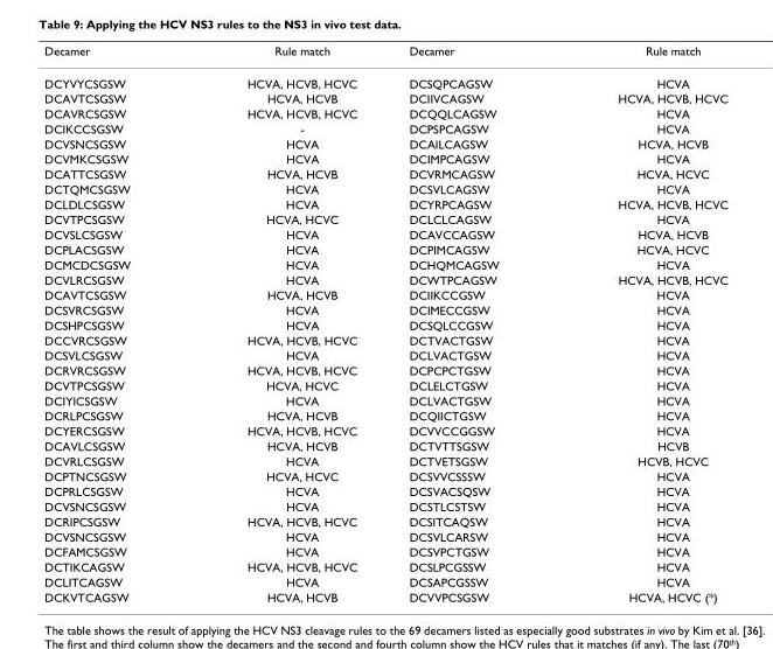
<table><thead><tr><td>Decamer</td><td>Rule match</td><td>Decamer</td><td>Rule match</td></tr></thead><tbody><tr><td>DCYVYCSGSW</td><td>HCVA, HCVB, HCVC</td><td>DCSQPCAGSW</td><td>HCVA</td></tr><tr><td>DCAVTCSGSW</td><td>HCVA, HCVB</td><td>DCIIVCAGSW</td><td>HCVA, HCVB, HCVC</td></tr><tr><td>DCAVRCSGSW</td><td>HCVA, HCVB, HCVC</td><td>DCQQLCAGSW</td><td>HCVA</td></tr><tr><td>DCIKCCSGSW</td><td>-</td><td>DCPSPCAGSW</td><td>HCVA</td></tr><tr><td>DCVSNCSGSW</td><td>HCVA</td><td>DCAILCAGSW</td><td>HCVA, HCVB</td></tr><tr><td>DCVMKCSGSW</td><td>HCVA</td><td>DCIMPCAGSW</td><td>HCVA</td></tr><tr><td>DCATTCSGSW</td><td>HCVA, HCVB</td><td>DCVRMCAGSW</td><td>HCVA, HCVC</td></tr><tr><td>DCTQMCSGSW</td><td>HCVA</td><td>DCSVLCAGSW</td><td>HCVA</td></tr><tr><td>DCLDLCSGSW</td><td>HCVA</td><td>DCYRPCAGSW</td><td>HCVA, HCVB, HCVC</td></tr><tr><td>DCVTPCSGSW</td><td>HCVA, HCVC</td><td>DCLCLCAGSW</td><td>HCVA</td></tr><tr><td>DCVSLCSGSW</td><td>HCVA</td><td>DCAVCCAGSW</td><td>HCVA, HCVB</td></tr><tr><td>DCPLACSGSW</td><td>HCVA</td><td>DCPIMCAGSW</td><td>HCVA, HCVC</td></tr><tr><td>DCMCDCSGSW</td><td>HCVA</td><td>DCHQMCAGSW</td><td>HCVA</td></tr><tr><td>DCVLRCSGSW</td><td>HCVA</td><td>DCWTPCAGSW</td><td>HCVA, HCVB, HCVC</td></tr><tr><td>DCAVTCSGSW</td><td>HCVA, HCVB</td><td>DCIIKCCGSW</td><td>HCVA</td></tr><tr><td>DCSVRCSGSW</td><td>HCVA</td><td>DCIMECCGSW</td><td>HCVA</td></tr><tr><td>DCSHPCSGSW</td><td>HCVA</td><td>DCSQLCCGSW</td><td>HCVA</td></tr><tr><td>DCCVRCSGSW</td><td>HCVA, HCVB, HCVC</td><td>DCTVACTGSW</td><td>HCVA</td></tr><tr><td>DCSVLCSGSW</td><td>HCVA</td><td>DCLVACTGSW</td><td>HCVA</td></tr><tr><td>DCRVRCSGSW</td><td>HCVA, HCVB, HCVC</td><td>DCPCPCTGSW</td><td>HCVA</td></tr><tr><td>DCVTPCSGSW</td><td>HCVA, HCVC</td><td>DCLELCTGSW</td><td>HCVA</td></tr><tr><td>DCIYICSGSW</td><td>HCVA</td><td>DCLVACTGSW</td><td>HCVA</td></tr><tr><td>DCRLPCSGSW</td><td>HCVA, HCVB</td><td>DCQIICTGSW</td><td>HCVA</td></tr><tr><td>DCYERCSGSW</td><td>HCVA, HCVB, HCVC</td><td>DCVVCCGGSW</td><td>HCVA</td></tr><tr><td>DCAVLCSGSW</td><td>HCVA, HCVB</td><td>DCTVTTSGSW</td><td>HCVB</td></tr><tr><td>DCVRLCSGSW</td><td>HCVA</td><td>DCTVETSGSW</td><td>HCVB, HCVC</td></tr><tr><td>DCPTNCSGSW</td><td>HCVA, HCVC</td><td>DCSVVCSSSW</td><td>HCVA</td></tr><tr><td>DCPRLCSGSW</td><td>HCVA</td><td>DCSVACSQSW</td><td>HCVA</td></tr><tr><td>DCVSNCSGSW</td><td>HCVA</td><td>DCSTLCSTSW</td><td>HCVA</td></tr><tr><td>DCRIPCSGSW</td><td>HCVA, HCVB, HCVC</td><td>DCSITCAQSW</td><td>HCVA</td></tr><tr><td>DCVSNCSGSW</td><td>HCVA</td><td>DCSVLCARSW</td><td>HCVA</td></tr><tr><td>DCFAMCSGSW</td><td>HCVA</td><td>DCSVPCTGSW</td><td>HCVA</td></tr><tr><td>DCTIKCAGSW</td><td>HCVA, HCVB, HCVC</td><td>DCSLPCGSSW</td><td>HCVA</td></tr><tr><td>DCLITCAGSW</td><td>HCVA</td><td>DCSAPCGSSW</td><td>HCVA</td></tr><tr><td>DCKVTCAGSW</td><td>HCVA, HCVB</td><td>DCVVPCSGSW</td><td>HCVA, HCVC (*)</td></tr></tbody></table>